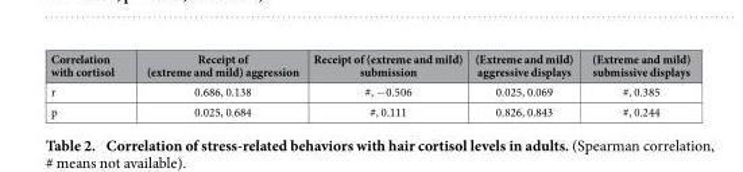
<table><thead><tr><td>Correlation with cortisol</td><td>Receipt of (extreme and mild) aggression</td><td>Receipt of (extreme and mild) submission</td><td>(Extreme and mild) aggressive displays</td><td>(Extreme and mild) submissive displays</td></tr></thead><tbody><tr><td>r</td><td>0.686, 0.138</td><td>#, − 0.506</td><td>0.025, 0.069</td><td>#, 0.385</td></tr><tr><td>p</td><td>0.025, 0.684</td><td>#, 0.111</td><td>0.826, 0.843</td><td>#, 0.244</td></tr></tbody></table>